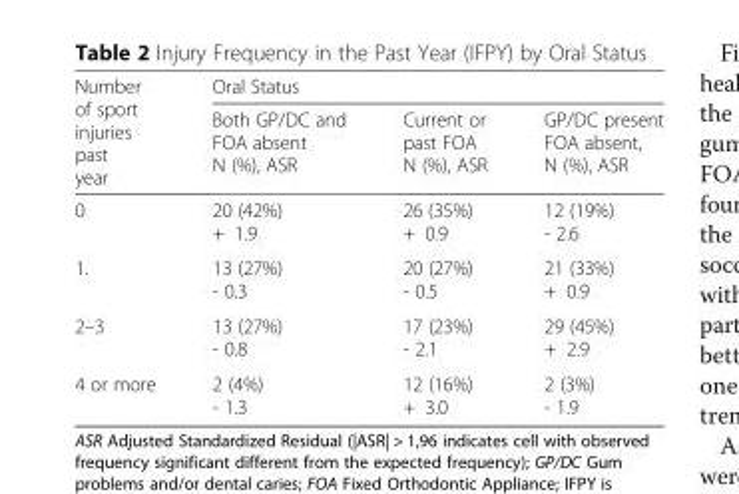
<table><thead><tr><td rowspan="2">Number of sport injuries past year</td><td colspan="3">Oral Status</td></tr><tr><td>Both GP/DC and FOA absent N (%), ASR</td><td>Current or past FOA N (%), ASR</td><td>GP/DC present FOA absent, N (%), ASR</td></tr></thead><tbody><tr><td>0</td><td>20 (42%) + 1.9</td><td>26 (35%) + 0.9</td><td>12 (19%) - 2.6</td></tr><tr><td>1.</td><td>13 (27%) - 0.3</td><td>20 (27%) - 0.5</td><td>21 (33%) + 0.9</td></tr><tr><td>2–3</td><td>13 (27%) - 0.8</td><td>17 (23%) - 2.1</td><td>29 (45%) + 2.9</td></tr><tr><td>4 or more</td><td>2 (4%) - 1.3</td><td>12 (16%) + 3.0</td><td>2 (3%) - 1.9</td></tr></tbody></table>